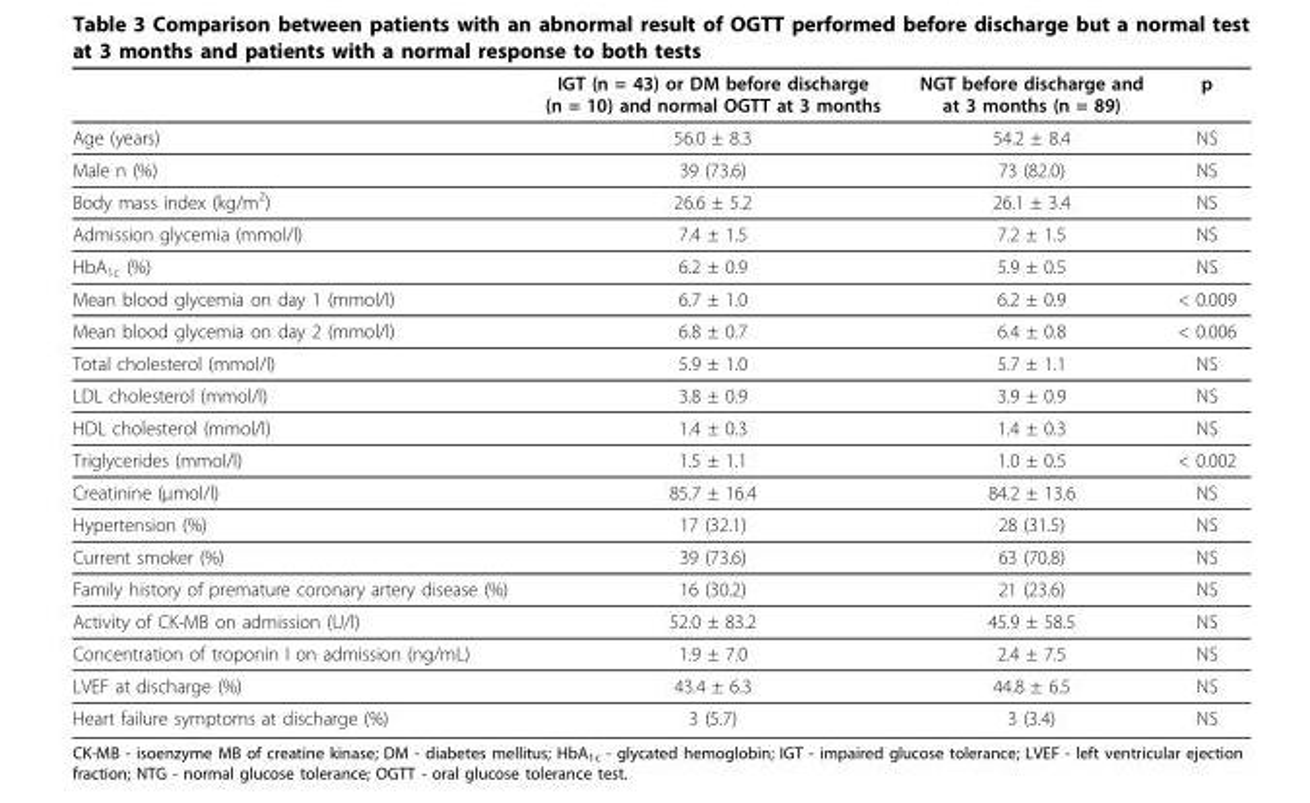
<table><thead><tr><td></td><td>IGT (n = 43) or DM before discharge (n = 10) and normal OGTT at 3 months</td><td>NGT before discharge and at 3 months (n = 89)</td><td>p</td></tr></thead><tbody><tr><td>Age (years)</td><td>56.0 ± 8.3</td><td>54.2 ± 8.4</td><td>NS</td></tr><tr><td>Male n (%)</td><td>39 (73.6)</td><td>73 (82.0)</td><td>NS</td></tr><tr><td>Body mass index (kg/m<sup>2</sup>)</td><td>26.6 ± 5.2</td><td>26.1 ± 3.4</td><td>NS</td></tr><tr><td>Admission glycemia (mmol/l)</td><td>7.4 ± 1.5</td><td>7.2 ± 1.5</td><td>NS</td></tr><tr><td>HbA<sub>1c</sub> (%)</td><td>6.2 ± 0.9</td><td>5.9 ± 0.5</td><td>NS</td></tr><tr><td>Mean blood glycemia on day 1 (mmol/l)</td><td>6.7 ± 1.0</td><td>6.2 ± 0.9</td><td>&lt; 0.009</td></tr><tr><td>Mean blood glycemia on day 2 (mmol/l)</td><td>6.8 ± 0.7</td><td>6.4 ± 0.8</td><td>&lt; 0.006</td></tr><tr><td>Total cholesterol (mmol/l)</td><td>5.9 ± 1.0</td><td>5.7 ± 1.1</td><td>NS</td></tr><tr><td>LDL cholesterol (mmol/l)</td><td>3.8 ± 0.9</td><td>3.9 ± 0.9</td><td>NS</td></tr><tr><td>HDL cholesterol (mmol/l)</td><td>1.4 ± 0.3</td><td>1.4 ± 0.3</td><td>NS</td></tr><tr><td>Triglycerides (mmol/l)</td><td>1.5 ± 1.1</td><td>1.0 ± 0.5</td><td>&lt; 0.002</td></tr><tr><td>Creatinine (μmol/l)</td><td>85.7 ± 16.4</td><td>84.2 ± 13.6</td><td>NS</td></tr><tr><td>Hypertension (%)</td><td>17 (32.1)</td><td>28 (31.5)</td><td>NS</td></tr><tr><td>Current smoker (%)</td><td>39 (73.6)</td><td>63 (70.8)</td><td>NS</td></tr><tr><td>Family history of premature coronary artery disease (%)</td><td>16 (30.2)</td><td>21 (23.6)</td><td>NS</td></tr><tr><td>Activity of CK-MB on admission (U/l)</td><td>52.0 ± 83.2</td><td>45.9 ± 58.5</td><td>NS</td></tr><tr><td>Concentration of troponin I on admission (ng/mL)</td><td>1.9 ± 7.0</td><td>2.4 ± 7.5</td><td>NS</td></tr><tr><td>LVEF at discharge (%)</td><td>43.4 ± 6.3</td><td>44.8 ± 6.5</td><td>NS</td></tr><tr><td>Heart failure symptoms at discharge (%)</td><td>3 (5.7)</td><td>3 (3.4)</td><td>NS</td></tr></tbody></table>